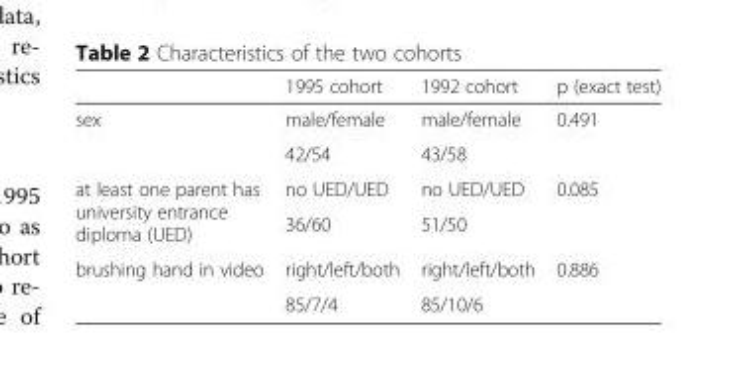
<table><thead><tr><td></td><td>1995 cohort</td><td>1992 cohort</td><td>p (exact test)</td></tr></thead><tbody><tr><td rowspan="2">sex</td><td>male/female</td><td>male/female</td><td rowspan="2">0.491</td></tr><tr><td>42/54</td><td>43/58</td></tr><tr><td rowspan="2">at least one parent has university entrance diploma (UED)</td><td>no UED/UED</td><td>no UED/UED</td><td rowspan="2">0.085</td></tr><tr><td>36/60</td><td>51/50</td></tr><tr><td rowspan="2">brushing hand in video</td><td>right/left/both</td><td>right/left/both</td><td rowspan="2">0.886</td></tr><tr><td>85/7/4</td><td>85/10/6</td></tr></tbody></table>